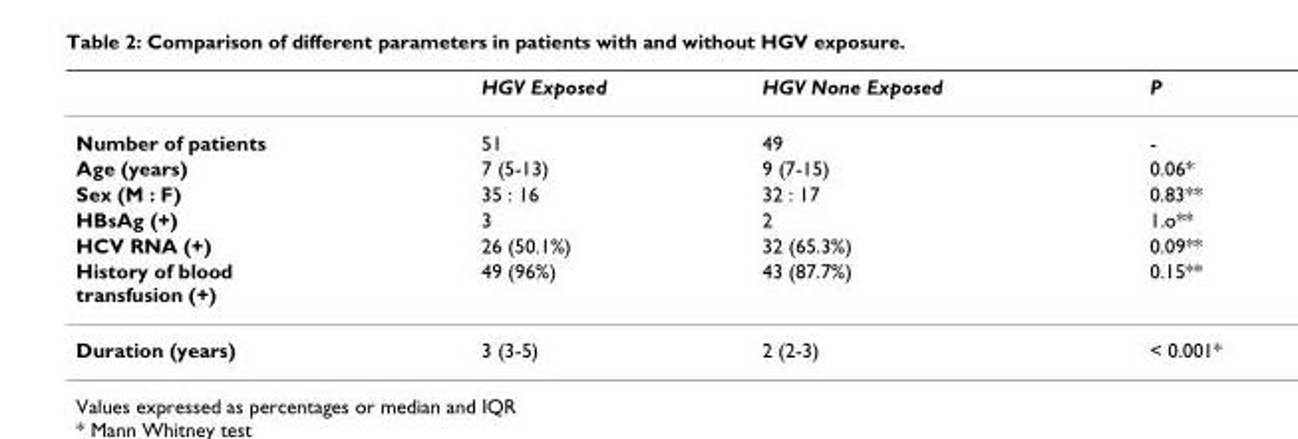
<table><thead><tr><td></td><td>HGV Exposed</td><td>HGV None Exposed</td><td>P</td></tr></thead><tbody><tr><td>Number of patients</td><td>51</td><td>49</td><td>-</td></tr><tr><td>Age (years)</td><td>7 (5-13)</td><td>9 (7-15)</td><td>0.06*</td></tr><tr><td>Sex (M : F)</td><td>35 : 16</td><td>32 : 17</td><td>0.83**</td></tr><tr><td>HBsAg (+)</td><td>3</td><td>2</td><td>1.o**</td></tr><tr><td>HCV RNA (+)</td><td>26 (50.1%)</td><td>32 (65.3%)</td><td>0.09**</td></tr><tr><td>History of blood transfusion (+)</td><td>49 (96%)</td><td>43 (87.7%)</td><td>0.15**</td></tr><tr><td>Duration (years)</td><td>3 (3-5)</td><td>2 (2-3)</td><td>&lt; 0.001*</td></tr></tbody></table>